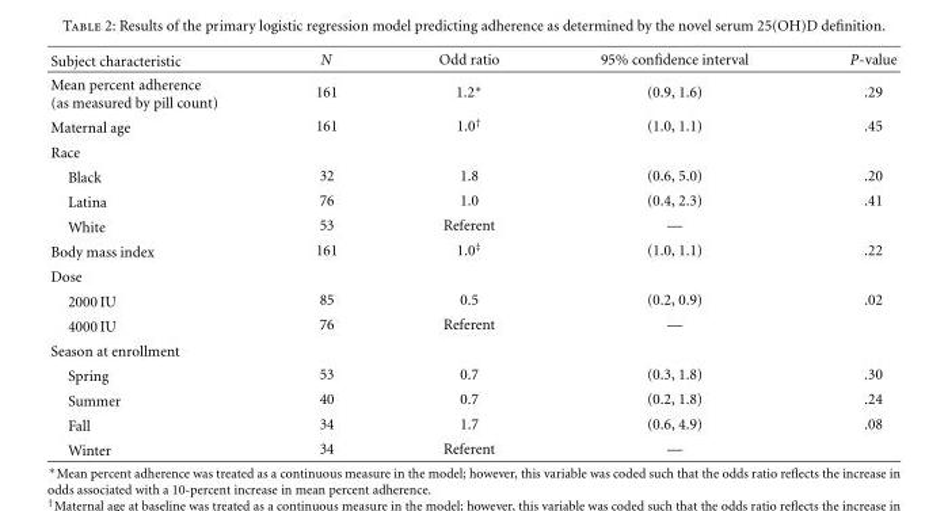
<table><thead><tr><td>Subject characteristic</td><td>N</td><td>Odd ratio</td><td>95% confidence interval</td><td>P-value</td></tr></thead><tbody><tr><td>Mean percent adherence (as measured by pill count)</td><td>161</td><td>1.2∗</td><td>(0.9, 1.6)</td><td>.29</td></tr><tr><td>Maternal age</td><td>161</td><td>1.0<sup>†</sup></td><td>(1.0, 1.1)</td><td>.45</td></tr><tr><td colspan="5">Race</td></tr><tr><td>Black</td><td>32</td><td>1.8</td><td>(0.6, 5.0)</td><td>.20</td></tr><tr><td>Latina</td><td>76</td><td>1.0</td><td>(0.4, 2.3)</td><td>.41</td></tr><tr><td>White</td><td>53</td><td>Referent</td><td>—</td><td></td></tr><tr><td>Body mass index</td><td>161</td><td>1.0<sup>‡</sup></td><td>(1.0, 1.1)</td><td>.22</td></tr><tr><td colspan="5">Dose</td></tr><tr><td>2000 IU</td><td>85</td><td>0.5</td><td>(0.2, 0.9)</td><td>.02</td></tr><tr><td>4000 IU</td><td>76</td><td>Referent</td><td>—</td><td></td></tr><tr><td colspan="5">Season at enrollment</td></tr><tr><td>Spring</td><td>53</td><td>0.7</td><td>(0.3, 1.8)</td><td>.30</td></tr><tr><td>Summer</td><td>40</td><td>0.7</td><td>(0.2, 1.8)</td><td>.24</td></tr><tr><td>Fall</td><td>34</td><td>1.7</td><td>(0.6, 4.9)</td><td>.08</td></tr><tr><td>Winter</td><td>34</td><td>Referent</td><td>—</td><td></td></tr></tbody></table>